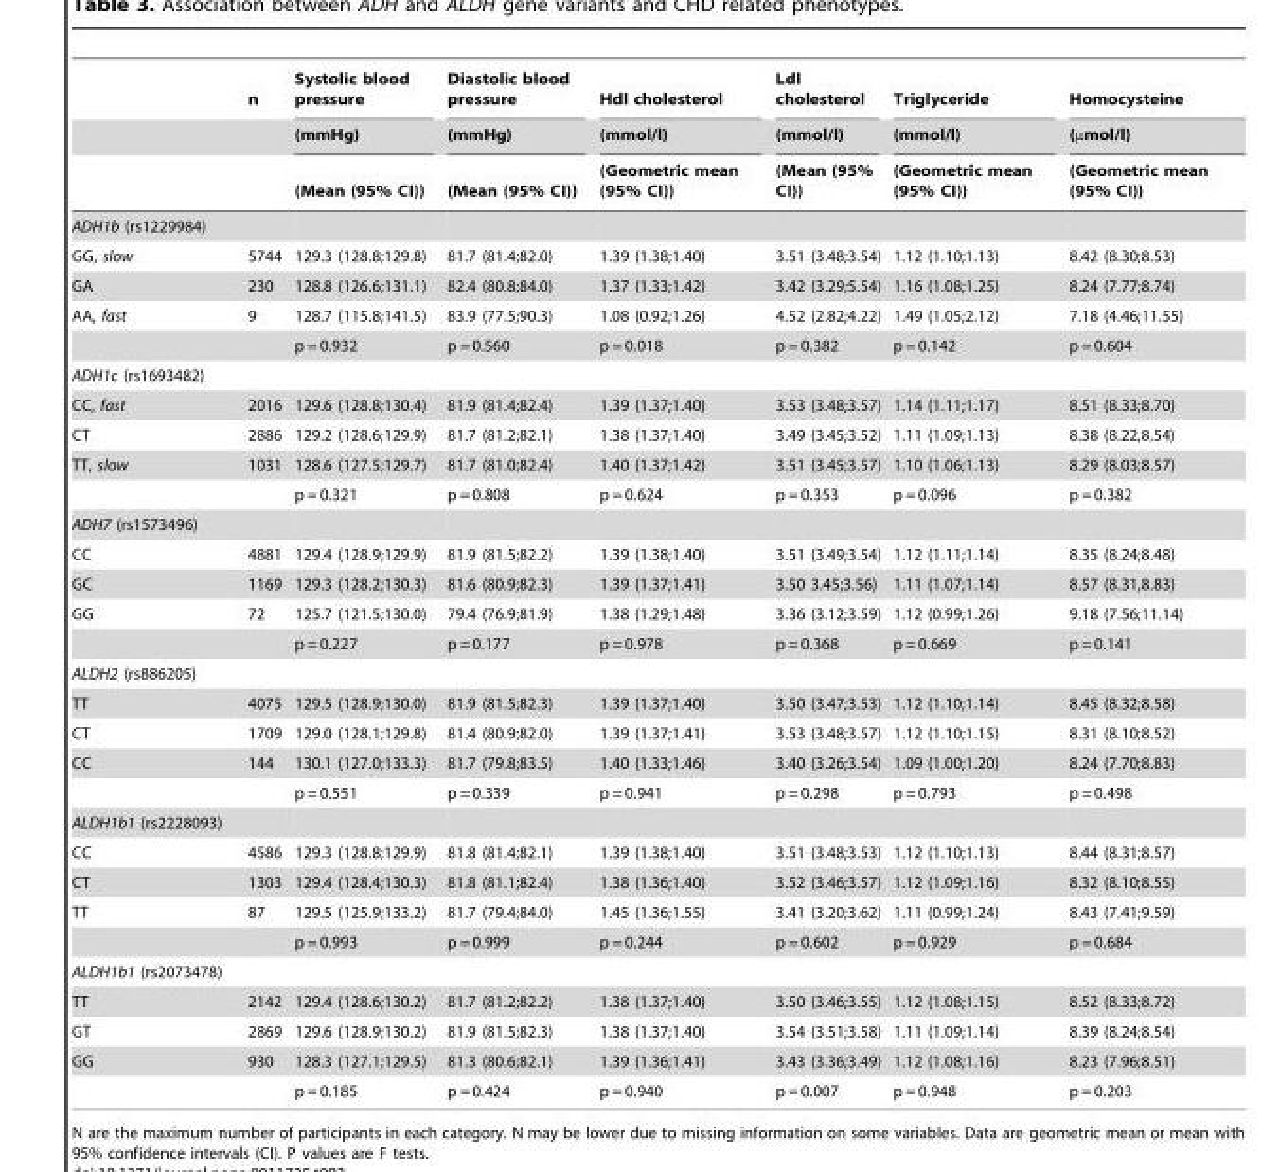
<table><thead><tr><td rowspan="3"></td><td rowspan="3">n</td><td rowspan="3">Systolic blood pressure (mmHg) (Mean (95% CI))</td><td rowspan="3">Diastolic blood pressure (mmHg) (Mean (95% CI))</td><td rowspan="3">Hdl cholesterol (mmol/l) (Geometric mean (95% CI))</td><td rowspan="3">Ldl cholesterol (mmol/l) (Mean (95% CI))</td><td rowspan="3">Triglyceride (mmol/l) (Geometric mean (95% CI))</td><td rowspan="3">Homocysteine (µmol/l) (Geometric mean (95% CI))</td></tr><tr></tr><tr></tr></thead><tbody><tr><td colspan="8">ADH1b (rs1229984)</td></tr><tr><td>GG, slow</td><td>5744</td><td>129.3 (128.8;129.8)</td><td>81.7 (81.4;82.0)</td><td>1.39 (1.38;1.40)</td><td>3.51 (3.48;3.54)</td><td>1.12 (1.10;1.13)</td><td>8.42 (8.30;8.53)</td></tr><tr><td>GA</td><td>230</td><td>128.8 (126.6;131.1)</td><td>82.4 (80.8;84.0)</td><td>1.37 (1.33;1.42)</td><td>3.42 (3.29;5.54)</td><td>1.16 (1.08;1.25)</td><td>8.24 (7.77;8.74)</td></tr><tr><td rowspan="2">AA, fast</td><td>9</td><td>128.7 (115.8;141.5)</td><td>83.9 (77.5;90.3)</td><td>1.08 (0.92;1.26)</td><td>4.52 (2.82;4.22)</td><td>1.49 (1.05;2.12)</td><td>7.18 (4.46;11.55)</td></tr><tr><td></td><td>p = 0.932</td><td>p = 0.560</td><td>p = 0.018</td><td>p = 0.382</td><td>p = 0.142</td><td>p = 0.604</td></tr><tr><td colspan="8">ADH1c (rs1693482)</td></tr><tr><td>CC, fast</td><td>2016</td><td>129.6 (128.8;130.4)</td><td>81.9 (81.4;82.4)</td><td>1.39 (1.37;1.40)</td><td>3.53 (3.48;3.57)</td><td>1.14 (1.11;1.17)</td><td>8.51 (8.33;8.70)</td></tr><tr><td>CT</td><td>2886</td><td>129.2 (128.6;129.9)</td><td>81.7 (81.2;82.1)</td><td>1.38 (1.37;1.40)</td><td>3.49 (3.45;3.52)</td><td>1.11 (1.09;1.13)</td><td>8.38 (8.22,8.54)</td></tr><tr><td rowspan="2">TT, slow</td><td>1031</td><td>128.6 (127.5;129.7)</td><td>81.7 (81.0;82.4)</td><td>1.40 (1.37;1.42)</td><td>3.51 (3.45;3.57)</td><td>1.10 (1.06;1.13)</td><td>8.29 (8.03;8.57)</td></tr><tr><td></td><td>p = 0.321</td><td>p = 0.808</td><td>p = 0.624</td><td>p = 0.353</td><td>p = 0.096</td><td>p = 0.382</td></tr><tr><td colspan="8">ADH7 (rs1573496)</td></tr><tr><td>CC</td><td>4881</td><td>129.4 (128.9;129.9)</td><td>81.9 (81.5;82.2)</td><td>1.39 (1.38;1.40)</td><td>3.51 (3.49;3.54)</td><td>1.12 (1.11;1.14)</td><td>8.35 (8.24;8.48)</td></tr><tr><td>GC</td><td>1169</td><td>129.3 (128.2;130.3)</td><td>81.6 (80.9;82.3)</td><td>1.39 (1.37;1.41)</td><td>3.50 3.45;3.56)</td><td>1.11 (1.07;1.14)</td><td>8.57 (8.31,8.83)</td></tr><tr><td rowspan="2">GG</td><td>72</td><td>125.7 (121.5;130.0)</td><td>79.4 (76.9;81.9)</td><td>1.38 (1.29;1.48)</td><td>3.36 (3.12;3.59)</td><td>1.12 (0.99;1.26)</td><td>9.18 (7.56;11.14)</td></tr><tr><td></td><td>p = 0.227</td><td>p = 0.177</td><td>p = 0.978</td><td>p = 0.368</td><td>p = 0.669</td><td>p = 0.141</td></tr><tr><td colspan="8">ALDH2 (rs886205)</td></tr><tr><td>TT</td><td>4075</td><td>129.5 (128.9;130.0)</td><td>81.9 (81.5;82.3)</td><td>1.39 (1.37;1.40)</td><td>3.50 (3.47;3.53)</td><td>1.12 (1.10;1.14)</td><td>8.45 (8.32;8.58)</td></tr><tr><td>CT</td><td>1709</td><td>129.0 (128.1;129.8)</td><td>81.4 (80.9;82.0)</td><td>1.39 (1.37;1.41)</td><td>3.53 (3.48;3.57)</td><td>1.12 (1.10;1.15)</td><td>8.31 (8.10;8.52)</td></tr><tr><td rowspan="2">CC</td><td>144</td><td>130.1 (127.0;133.3)</td><td>81.7 (79.8;83.5)</td><td>1.40 (1.33;1.46)</td><td>3.40 (3.26;3.54)</td><td>1.09 (1.00;1.20)</td><td>8.24 (7.70;8.83)</td></tr><tr><td></td><td>p = 0.551</td><td>p = 0.339</td><td>p = 0.941</td><td>p = 0.298</td><td>p = 0.793</td><td>p = 0.498</td></tr><tr><td colspan="8">ALDH1b1 (rs2228093)</td></tr><tr><td>CC</td><td>4586</td><td>129.3 (128.8;129.9)</td><td>81.8 (81.4;82.1)</td><td>1.39 (1.38;1.40)</td><td>3.51 (3.48;3.53)</td><td>1.12 (1.10;1.13)</td><td>8.44 (8.31;8.57)</td></tr><tr><td>CT</td><td>1303</td><td>129.4 (128.4;130.3)</td><td>81.8 (81.1;82.4)</td><td>1.38 (1.36;1.40)</td><td>3.52 (3.46;3.57)</td><td>1.12 (1.09;1.16)</td><td>8.32 (8.10;8.55)</td></tr><tr><td rowspan="2">TT</td><td>87</td><td>129.5 (125.9;133.2)</td><td>81.7 (79.4;84.0)</td><td>1.45 (1.36;1.55)</td><td>3.41 (3.20;3.62)</td><td>1.11 (0.99;1.24)</td><td>8.43 (7.41;9.59)</td></tr><tr><td></td><td>p = 0.993</td><td>p = 0.999</td><td>p = 0.244</td><td>p = 0.602</td><td>p = 0.929</td><td>p = 0.684</td></tr><tr><td colspan="8">ALDH1b1 (rs2073478)</td></tr><tr><td>TT</td><td>2142</td><td>129.4 (128.6;130.2)</td><td>81.7 (81.2;82.2)</td><td>1.38 (1.37;1.40)</td><td>3.50 (3.46;3.55)</td><td>1.12 (1.08;1.15)</td><td>8.52 (8.33;8.72)</td></tr><tr><td>GT</td><td>2869</td><td>129.6 (128.9;130.2)</td><td>81.9 (81.5;82.3)</td><td>1.38 (1.37;1.40)</td><td>3.54 (3.51;3.58)</td><td>1.11 (1.09;1.14)</td><td>8.39 (8.24;8.54)</td></tr><tr><td rowspan="2">GG</td><td>930</td><td>128.3 (127.1;129.5)</td><td>81.3 (80.6;82.1)</td><td>1.39 (1.36;1.41)</td><td>3.43 (3.36;3.49)</td><td>1.12 (1.08;1.16)</td><td>8.23 (7.96;8.51)</td></tr><tr><td></td><td>p = 0.185</td><td>p = 0.424</td><td>p = 0.940</td><td>p = 0.007</td><td>p = 0.948</td><td>p = 0.203</td></tr></tbody></table>